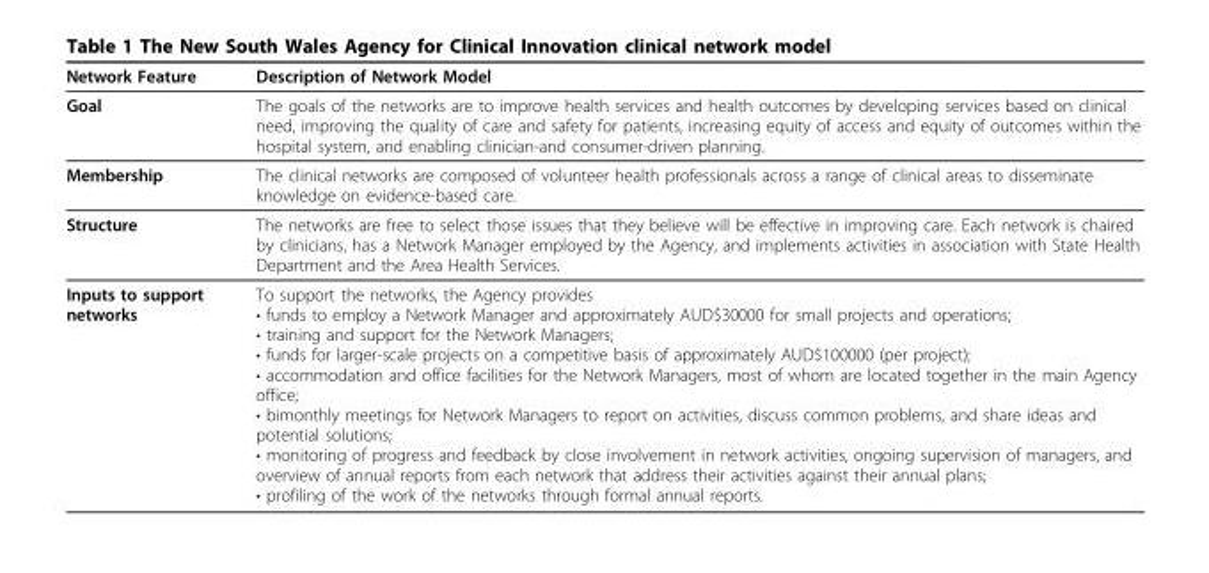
<table><thead><tr><td>Network Feature</td><td>Description of Network Model</td></tr></thead><tbody><tr><td>Goal</td><td>The goals of the networks are to improve health services and health outcomes by developing services based on clinical need, improving the quality of care and safety for patients, increasing equity of access and equity of outcomes within the hospital system, and enabling clinician-and consumer-driven planning.</td></tr><tr><td>Membership</td><td>The clinical networks are composed of volunteer health professionals across a range of clinical areas to disseminate knowledge on evidence-based care.</td></tr><tr><td>Structure</td><td>The networks are free to select those issues that they believe will be effective in improving care. Each network is chaired by clinicians, has a Network Manager employed by the Agency, and implements activities in association with State Health Department and the Area Health Services.</td></tr><tr><td>Inputs to support networks</td><td>To support the networks, the Agency provides • funds to employ a Network Manager and approximately AUD$30000 for small projects and operations; • training and support for the Network Managers; • funds for larger-scale projects on a competitive basis of approximately AUD$100000 (per project); • accommodation and office facilities for the Network Managers, most of whom are located together in the main Agency office; • bimonthly meetings for Network Managers to report on activities, discuss common problems, and share ideas and potential solutions; • monitoring of progress and feedback by close involvement in network activities, ongoing supervision of managers, and overview of annual reports from each network that address their activities against their annual plans; • profiling of the work of the networks through formal annual reports.</td></tr></tbody></table>